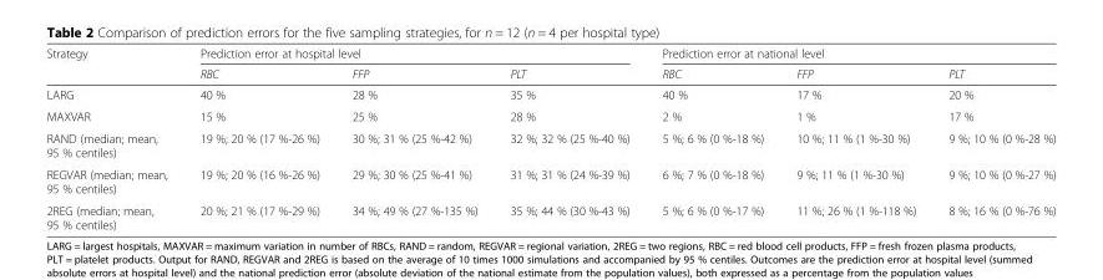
<table><thead><tr><td rowspan="2">Strategy</td><td colspan="3">Prediction error at hospital level</td><td colspan="3">Prediction error at national level</td></tr><tr><td>RBC</td><td>FFP</td><td>PLT</td><td>RBC</td><td>FFP</td><td>PLT</td></tr></thead><tbody><tr><td>LARG</td><td>40 %</td><td>28 %</td><td>35 %</td><td>40 %</td><td>17 %</td><td>20 %</td></tr><tr><td>MAXVAR</td><td>15 %</td><td>25 %</td><td>28 %</td><td>2 %</td><td>1 %</td><td>17 %</td></tr><tr><td>RAND (median; mean, 95 % centiles)</td><td>19 %; 20 % (17 %-26 %)</td><td>30 %; 31 % (25 %-42 %)</td><td>32 %; 32 % (25 %-40 %)</td><td>5 %; 6 % (0 %-18 %)</td><td>10 %; 11 % (1 %-30 %)</td><td>9 %; 10 % (0 %-28 %)</td></tr><tr><td>REGVAR (median; mean, 95 % centiles)</td><td>19 %; 20 % (16 %-26 %)</td><td>29 %; 30 % (25 %-41 %)</td><td>31 %; 31 % (24 %-39 %)</td><td>6 %; 7 % (0 %-18 %)</td><td>9 %; 11 % (1 %-30 %)</td><td>9 %; 10 % (0 %-27 %)</td></tr><tr><td>2REG (median; mean, 95 % centiles)</td><td>20 %; 21 % (17 %-29 %)</td><td>34 %; 49 % (27 %-135 %)</td><td>35 %; 44 % (30 %-43 %)</td><td>5 %; 6 % (0 %-17 %)</td><td>11 %; 26 % (1 %-118 %)</td><td>8 %; 16 % (0 %-76 %)</td></tr></tbody></table>